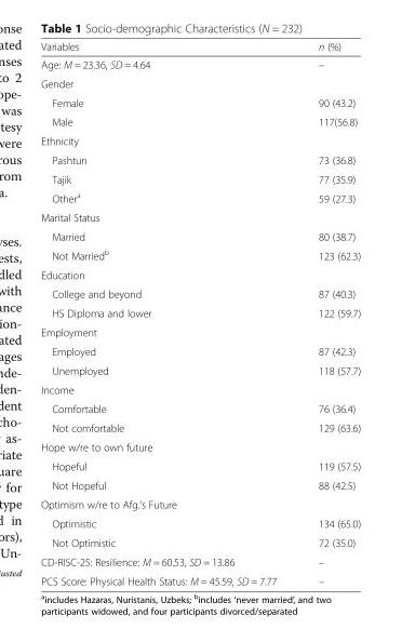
<table><thead><tr><td>Variables</td><td>n (%)</td></tr></thead><tbody><tr><td>Age: M = 23.36, SD = 4.64</td><td>–</td></tr><tr><td colspan="2">Gender</td></tr><tr><td>Female</td><td>90 (43.2)</td></tr><tr><td>Male</td><td>117(56.8)</td></tr><tr><td colspan="2">Ethnicity</td></tr><tr><td>Pashtun</td><td>73 (36.8)</td></tr><tr><td>Tajik</td><td>77 (35.9)</td></tr><tr><td>Other<sup>a</sup></td><td>59 (27.3)</td></tr><tr><td colspan="2">Marital Status</td></tr><tr><td>Married</td><td>80 (38.7)</td></tr><tr><td>Not Married<sup>b</sup></td><td>123 (62.3)</td></tr><tr><td colspan="2">Education</td></tr><tr><td>College and beyond</td><td>87 (40.3)</td></tr><tr><td>HS Diploma and lower</td><td>122 (59.7)</td></tr><tr><td colspan="2">Employment</td></tr><tr><td>Employed</td><td>87 (42.3)</td></tr><tr><td>Unemployed</td><td>118 (57.7)</td></tr><tr><td colspan="2">Income</td></tr><tr><td>Comfortable</td><td>76 (36.4)</td></tr><tr><td>Not comfortable</td><td>129 (63.6)</td></tr><tr><td colspan="2">Hope w/re to own future</td></tr><tr><td>Hopeful</td><td>119 (57.5)</td></tr><tr><td>Not Hopeful</td><td>88 (42.5)</td></tr><tr><td colspan="2">Optimism w/re to Afg.’s Future</td></tr><tr><td>Optimistic</td><td>134 (65.0)</td></tr><tr><td>Not Optimistic</td><td>72 (35.0)</td></tr><tr><td>CD-RISC-25: Resilience: M = 60.53, SD = 13.86</td><td>–</td></tr><tr><td>PCS Score: Physical Health Status: M = 45.59, SD = 7.77</td><td>–</td></tr></tbody></table>